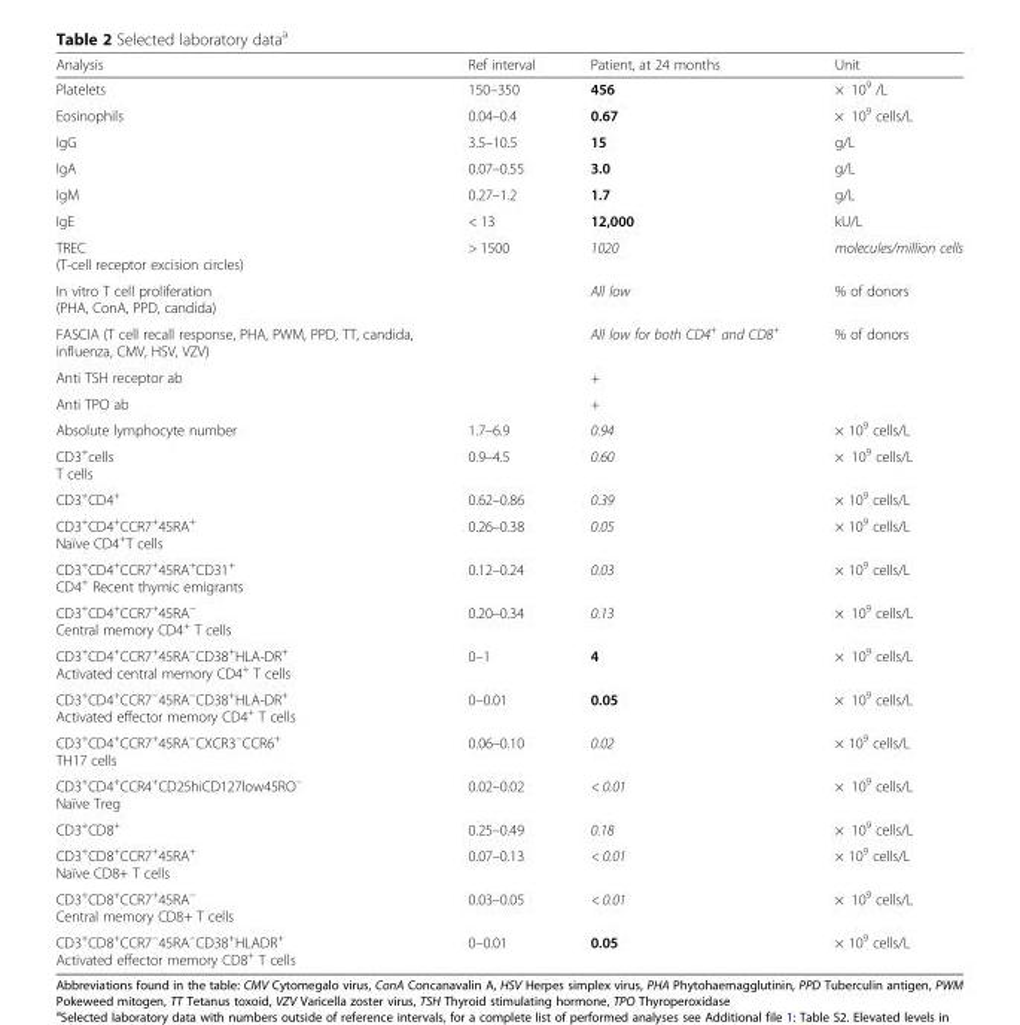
<table><thead><tr><td>Analysis</td><td>Ref interval</td><td>Patient, at 24 months</td><td>Unit</td></tr></thead><tbody><tr><td>Platelets</td><td>150–350</td><td>456</td><td>× 10<sup>9</sup> /L</td></tr><tr><td>Eosinophils</td><td>0.04–0.4</td><td>0.67</td><td>× 10<sup>9</sup> cells/L</td></tr><tr><td>IgG</td><td>3.5–10.5</td><td>15</td><td>g/L</td></tr><tr><td>IgA</td><td>0.07–0.55</td><td>3.0</td><td>g/L</td></tr><tr><td>IgM</td><td>0.27–1.2</td><td>1.7</td><td>g/L</td></tr><tr><td>IgE</td><td>&lt; 13</td><td>12,000</td><td>kU/L</td></tr><tr><td>TREC (T-cell receptor excision circles)</td><td>&gt; 1500</td><td>1020</td><td>molecules/million cells</td></tr><tr><td>In vitro T cell proliferation (PHA, ConA, PPD, candida)</td><td></td><td>All low</td><td>% of donors</td></tr><tr><td>FASCIA (T cell recall response, PHA, PWM, PPD, TT, candida, influenza, CMV, HSV, VZV)</td><td></td><td>All low for both CD4<sup>+</sup> and CD8<sup>+</sup></td><td>% of donors</td></tr><tr><td>Anti TSH receptor ab</td><td></td><td>+</td><td></td></tr><tr><td>Anti TPO ab</td><td></td><td>+</td><td></td></tr><tr><td>Absolute lymphocyte number</td><td>1.7–6.9</td><td>0.94</td><td>× 10<sup>9</sup> cells/L</td></tr><tr><td>CD3<sup>+</sup>cells T cells</td><td>0.9–4.5</td><td>0.60</td><td>× 10<sup>9</sup> cells/L</td></tr><tr><td>CD3<sup>+</sup>CD4<sup>+</sup></td><td>0.62–0.86</td><td>0.39</td><td>× 10<sup>9</sup> cells/L</td></tr><tr><td>CD3<sup>+</sup>CD4<sup>+</sup>CCR7<sup>+</sup>45RA<sup>+</sup> Naïve CD4<sup>+</sup>T cells</td><td>0.26–0.38</td><td>0.05</td><td>× 10<sup>9</sup> cells/L</td></tr><tr><td>CD3<sup>+</sup>CD4<sup>+</sup>CCR7<sup>+</sup>45RA<sup>+</sup>CD31<sup>+</sup> CD4<sup>+</sup> Recent thymic emigrants</td><td>0.12–0.24</td><td>0.03</td><td>× 10<sup>9</sup> cells/L</td></tr><tr><td>CD3<sup>+</sup>CD4<sup>+</sup>CCR7<sup>+</sup>45RA<sup>−</sup> Central memory CD4<sup>+</sup> T cells</td><td>0.20–0.34</td><td>0.13</td><td>× 10<sup>9</sup> cells/L</td></tr><tr><td>CD3<sup>+</sup>CD4<sup>+</sup>CCR7<sup>+</sup>45RA<sup>−</sup>CD38<sup>+</sup>HLA-DR<sup>+</sup> Activated central memory CD4<sup>+</sup> T cells</td><td>0–1</td><td>4</td><td>× 10<sup>9</sup> cells/L</td></tr><tr><td>CD3<sup>+</sup>CD4<sup>+</sup>CCR7<sup>−</sup>45RA<sup>−</sup>CD38<sup>+</sup>HLA-DR<sup>+</sup> Activated effector memory CD4<sup>+</sup> T cells</td><td>0–0.01</td><td>0.05</td><td>× 10<sup>9</sup> cells/L</td></tr><tr><td>CD3<sup>+</sup>CD4<sup>+</sup>CCR7<sup>+</sup>45RA<sup>−</sup>CXCR3<sup>−</sup>CCR6<sup>+</sup> TH17 cells</td><td>0.06–0.10</td><td>0.02</td><td>× 10<sup>9</sup> cells/L</td></tr><tr><td>CD3<sup>+</sup>CD4<sup>+</sup>CCR4<sup>+</sup>CD25hiCD127low45RO<sup>−</sup> Naïve Treg</td><td>0.02–0.02</td><td>&lt; 0.01</td><td>× 10<sup>9</sup> cells/L</td></tr><tr><td>CD3<sup>+</sup>CD8<sup>+</sup></td><td>0.25–0.49</td><td>0.18</td><td>× 10<sup>9</sup> cells/L</td></tr><tr><td>CD3<sup>+</sup>CD8<sup>+</sup>CCR7<sup>+</sup>45RA<sup>+</sup> Naïve CD8+ T cells</td><td>0.07–0.13</td><td>&lt; 0.01</td><td>× 10<sup>9</sup> cells/L</td></tr><tr><td>CD3<sup>+</sup>CD8<sup>+</sup>CCR7<sup>+</sup>45RA<sup>−</sup> Central memory CD8+ T cells</td><td>0.03–0.05</td><td>&lt; 0.01</td><td>× 10<sup>9</sup> cells/L</td></tr><tr><td>CD3<sup>+</sup>CD8<sup>+</sup>CCR7<sup>−</sup>45RA<sup>−</sup>CD38<sup>+</sup>HLADR<sup>+</sup> Activated effector memory CD8<sup>+</sup> T cells</td><td>0–0.01</td><td>0.05</td><td>× 10<sup>9</sup> cells/L</td></tr></tbody></table>